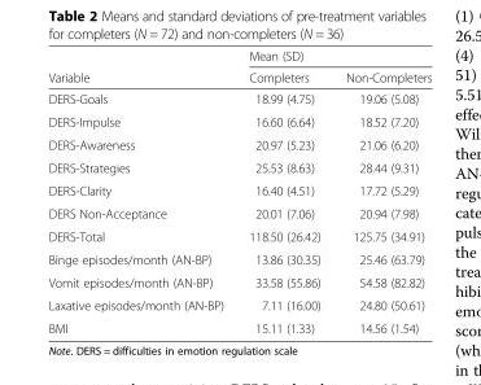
<table><thead><tr><td rowspan="2">Variable</td><td colspan="2">Mean (SD)</td></tr><tr><td>Completers</td><td>Non-Completers</td></tr></thead><tbody><tr><td>DERS-Goals</td><td>18.99 (4.75)</td><td>19.06 (5.08)</td></tr><tr><td>DERS-Impulse</td><td>16.60 (6.64)</td><td>18.52 (7.20)</td></tr><tr><td>DERS-Awareness</td><td>20.97 (5.23)</td><td>21.06 (6.20)</td></tr><tr><td>DERS-Strategies</td><td>25.53 (8.63)</td><td>28.44 (9.31)</td></tr><tr><td>DERS-Clarity</td><td>16.40 (4.51)</td><td>17.72 (5.29)</td></tr><tr><td>DERS Non-Acceptance</td><td>20.01 (7.06)</td><td>20.94 (7.98)</td></tr><tr><td>DERS-Total</td><td>118.50 (26.42)</td><td>125.75 (34.91)</td></tr><tr><td>Binge episodes/month (AN-BP)</td><td>13.86 (30.35)</td><td>25.46 (63.79)</td></tr><tr><td>Vomit episodes/month (AN-BP)</td><td>33.58 (55.86)</td><td>54.58 (82.82)</td></tr><tr><td>Laxative episodes/month (AN-BP)</td><td>7.11 (16.00)</td><td>24.80 (50.61)</td></tr><tr><td>BMI</td><td>15.11 (1.33)</td><td>14.56 (1.54)</td></tr></tbody></table>